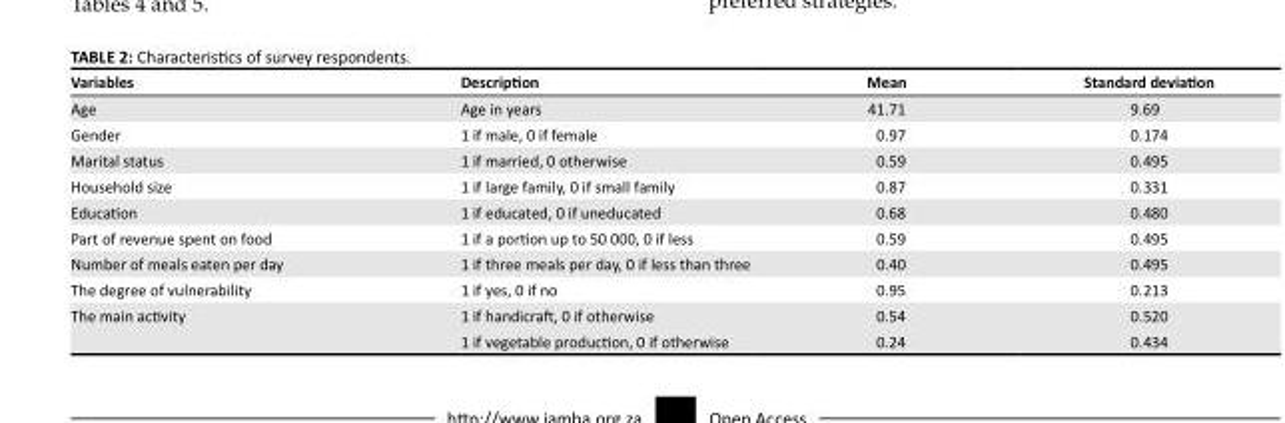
<table><thead><tr><td>Variables</td><td>Description</td><td>Mean</td><td>Standard deviation</td></tr></thead><tbody><tr><td>Age</td><td>Age in years</td><td>41.71</td><td>9.69</td></tr><tr><td>Gender</td><td>1 if male, 0 if female</td><td>0.97</td><td>0.174</td></tr><tr><td>Marital status</td><td>1 if married, 0 otherwise</td><td>0.59</td><td>0.495</td></tr><tr><td>Household size</td><td>1 if large family, 0 if small family</td><td>0.87</td><td>0.331</td></tr><tr><td>Education</td><td>1 if educated, 0 if uneducated</td><td>0.68</td><td>0.480</td></tr><tr><td>Part of revenue spent on food</td><td>1 if a portion up to 50 000, 0 if less</td><td>0.59</td><td>0.495</td></tr><tr><td>Number of meals eaten per day</td><td>1 if three meals per day, 0 if less than three</td><td>0.40</td><td>0.495</td></tr><tr><td>The degree of vulnerability</td><td>1 if yes, 0 if no</td><td>0.95</td><td>0.213</td></tr><tr><td rowspan="2">The main activity</td><td>1 if handicraft, 0 if otherwise</td><td>0.54</td><td>0.520</td></tr><tr><td>1 if vegetable production, 0 if otherwise</td><td>0.24</td><td>0.434</td></tr></tbody></table>